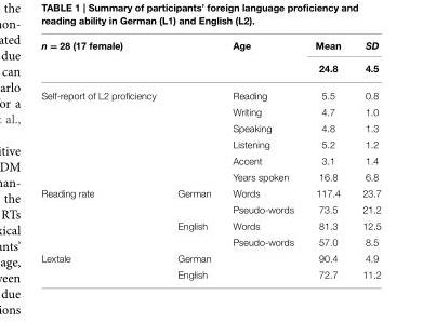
<table><thead><tr><td rowspan="2">n = 28 (17 female)</td><td rowspan="2"></td><td rowspan="2">Age</td><td rowspan="2">Mean 24.8</td><td rowspan="2">SD 4.5</td></tr><tr></tr></thead><tbody><tr><td rowspan="6">Self-report of L2 proficiency</td><td></td><td>Reading</td><td>5.5</td><td>0.8</td></tr><tr><td></td><td>Writing</td><td>4.7</td><td>1.0</td></tr><tr><td></td><td>Speaking</td><td>4.8</td><td>1.3</td></tr><tr><td></td><td>Listening</td><td>5.2</td><td>1.2</td></tr><tr><td></td><td>Accent</td><td>3.1</td><td>1.4</td></tr><tr><td></td><td>Years spoken</td><td>16.8</td><td>6.8</td></tr><tr><td rowspan="4">Reading rate</td><td>German</td><td>Words</td><td>117.4</td><td>23.7</td></tr><tr><td></td><td>Pseudo-words</td><td>73.5</td><td>21.2</td></tr><tr><td>English</td><td>Words</td><td>81.3</td><td>12.5</td></tr><tr><td></td><td>Pseudo-words</td><td>57.0</td><td>8.5</td></tr><tr><td rowspan="2">Lextale</td><td>German</td><td></td><td>90.4</td><td>4.9</td></tr><tr><td>English</td><td></td><td>72.7</td><td>11.2</td></tr></tbody></table>